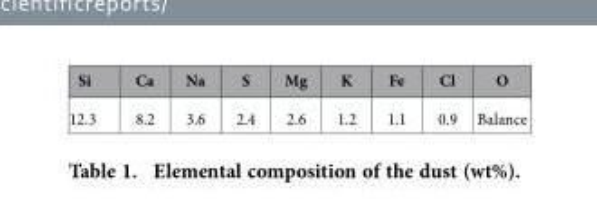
<table><thead><tr><td>Si</td><td>Ca</td><td>Na</td><td>S</td><td>Mg</td><td>K</td><td>Fe</td><td>Cl</td><td>O</td></tr></thead><tbody><tr><td>12.3</td><td>8.2</td><td>3.6</td><td>2.4</td><td>2.6</td><td>1.2</td><td>1.1</td><td>0.9</td><td>Balance</td></tr></tbody></table>